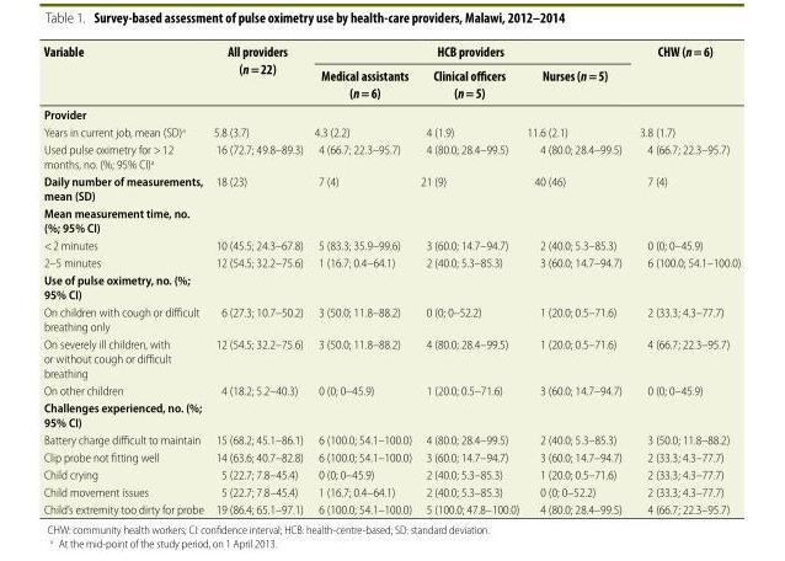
<table><thead><tr><td rowspan="2">Variable</td><td rowspan="2">All providers (n = 22)</td><td colspan="3">HCB providers</td><td rowspan="2">CHW (n = 6)</td></tr><tr><td>Medical assistants (n = 6)</td><td>Clinical officers (n = 5)</td><td>Nurses (n = 5)</td></tr></thead><tbody><tr><td colspan="6">Provider</td></tr><tr><td>Years in current job, mean (SD)<sup>a</sup></td><td>5.8 (3.7)</td><td>4.3 (2.2)</td><td>4 (1.9)</td><td>11.6 (2.1)</td><td>3.8 (1.7)</td></tr><tr><td>Used pulse oximetry for &gt; 12 months, no. (%; 95% CI)<sup>a</sup></td><td>16 (72.7; 49.8–89.3)</td><td>4 (66.7; 22.3–95.7)</td><td>4 (80.0; 28.4–99.5)</td><td>4 (80.0; 28.4–99.5)</td><td>4 (66.7; 22.3–95.7)</td></tr><tr><td>Daily number of measurements, mean (SD)</td><td>18 (23)</td><td>7 (4)</td><td>21 (9)</td><td>40 (46)</td><td>7 (4)</td></tr><tr><td colspan="6">Mean measurement time, no. (%; 95% CI)</td></tr><tr><td>&lt; 2 minutes</td><td>10 (45.5; 24.3–67.8)</td><td>5 (83.3; 35.9–99.6)</td><td>3 (60.0; 14.7–94.7)</td><td>2 (40.0; 5.3–85.3)</td><td>0 (0; 0–45.9)</td></tr><tr><td>2–5 minutes</td><td>12 (54.5; 32.2–75.6)</td><td>1 (16.7; 0.4–64.1)</td><td>2 (40.0; 5.3–85.3)</td><td>3 (60.0; 14.7–94.7)</td><td>6 (100.0; 54.1–100.0)</td></tr><tr><td colspan="6">Use of pulse oximetry, no. (%; 95% CI)</td></tr><tr><td>On children with cough or difficult breathing only</td><td>6 (27.3; 10.7–50.2)</td><td>3 (50.0; 11.8–88.2)</td><td>0 (0; 0–52.2)</td><td>1 (20.0; 0.5–71.6)</td><td>2 (33.3; 4.3–77.7)</td></tr><tr><td>On severely ill children, with or without cough or difficult breathing</td><td>12 (54.5; 32.2–75.6)</td><td>3 (50.0; 11.8–88.2)</td><td>4 (80.0; 28.4–99.5)</td><td>1 (20.0; 0.5–71.6)</td><td>4 (66.7; 22.3–95.7)</td></tr><tr><td>On other children</td><td>4 (18.2; 5.2–40.3)</td><td>0 (0; 0–45.9)</td><td>1 (20.0; 0.5–71.6)</td><td>3 (60.0; 14.7–94.7)</td><td>0 (0; 0–45.9)</td></tr><tr><td colspan="6">Challenges experienced, no. (%; 95% CI)</td></tr><tr><td>Battery charge difficult to maintain</td><td>15 (68.2; 45.1–86.1)</td><td>6 (100.0; 54.1–100.0)</td><td>4 (80.0; 28.4–99.5)</td><td>2 (40.0; 5.3–85.3)</td><td>3 (50.0; 11.8–88.2)</td></tr><tr><td>Clip probe not fitting well</td><td>14 (63.6; 40.7–82.8)</td><td>6 (100.0; 54.1–100.0)</td><td>3 (60.0; 14.7–94.7)</td><td>3 (60.0; 14.7–94.7)</td><td>2 (33.3; 4.3–77.7)</td></tr><tr><td>Child crying</td><td>5 (22.7; 7.8–45.4)</td><td>0 (0; 0–45.9)</td><td>2 (40.0; 5.3–85.3)</td><td>1 (20.0; 0.5–71.6)</td><td>2 (33.3; 4.3–77.7)</td></tr><tr><td>Child movement issues</td><td>5 (22.7; 7.8–45.4)</td><td>1 (16.7; 0.4–64.1)</td><td>2 (40.0; 5.3–85.3)</td><td>0 (0; 0–52.2)</td><td>2 (33.3; 4.3–77.7)</td></tr><tr><td>Child’s extremity too dirty for probe</td><td>19 (86.4; 65.1–97.1)</td><td>6 (100.0; 54.1–100.0)</td><td>5 (100.0; 47.8–100.0)</td><td>4 (80.0; 28.4–99.5)</td><td>4 (66.7; 22.3–95.7)</td></tr></tbody></table>